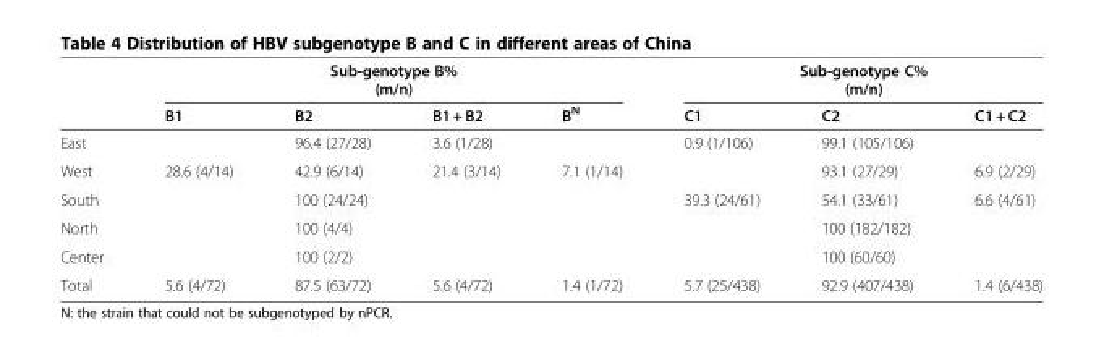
<table><thead><tr><td rowspan="2"></td><td colspan="4">Sub-genotype B% (m/n)</td><td colspan="3">Sub-genotype C% (m/n)</td></tr><tr><td>B1</td><td>B2</td><td>B1 + B2</td><td>B<sup>N</sup></td><td>C1</td><td>C2</td><td>C1 + C2</td></tr></thead><tbody><tr><td>East</td><td></td><td>96.4 (27/28)</td><td>3.6 (1/28)</td><td></td><td>0.9 (1/106)</td><td>99.1 (105/106)</td><td></td></tr><tr><td>West</td><td>28.6 (4/14)</td><td>42.9 (6/14)</td><td>21.4 (3/14)</td><td>7.1 (1/14)</td><td></td><td>93.1 (27/29)</td><td>6.9 (2/29)</td></tr><tr><td>South</td><td></td><td>100 (24/24)</td><td></td><td></td><td>39.3 (24/61)</td><td>54.1 (33/61)</td><td>6.6 (4/61)</td></tr><tr><td>North</td><td></td><td>100 (4/4)</td><td></td><td></td><td></td><td>100 (182/182)</td><td></td></tr><tr><td>Center</td><td></td><td>100 (2/2)</td><td></td><td></td><td></td><td>100 (60/60)</td><td></td></tr><tr><td>Total</td><td>5.6 (4/72)</td><td>87.5 (63/72)</td><td>5.6 (4/72)</td><td>1.4 (1/72)</td><td>5.7 (25/438)</td><td>92.9 (407/438)</td><td>1.4 (6/438)</td></tr></tbody></table>